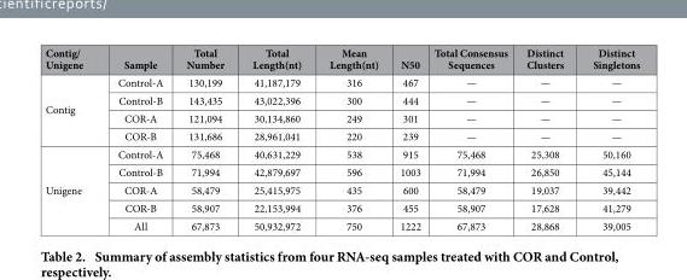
<table><thead><tr><td>Contig/ Unigene</td><td>Sample</td><td>Total Number</td><td>Total Length(nt)</td><td>Mean Length(nt)</td><td>N50</td><td>Total Consensus Sequences</td><td>Distinct Clusters</td><td>Distinct Singletons</td></tr></thead><tbody><tr><td rowspan="4">Contig</td><td>Control-A</td><td>130,199</td><td>41,187,179</td><td>316</td><td>467</td><td>—</td><td>—</td><td>—</td></tr><tr><td>Control-B</td><td>143,435</td><td>43,022,396</td><td>300</td><td>444</td><td>—</td><td>—</td><td>—</td></tr><tr><td>COR-A</td><td>121,094</td><td>30,134,860</td><td>249</td><td>301</td><td>—</td><td>—</td><td>—</td></tr><tr><td>COR-B</td><td>131,686</td><td>28,961,041</td><td>220</td><td>239</td><td>—</td><td>—</td><td>—</td></tr><tr><td rowspan="5">Unigene</td><td>Control-A</td><td>75,468</td><td>40,631,229</td><td>538</td><td>915</td><td>75,468</td><td>25,308</td><td>50,160</td></tr><tr><td>Control-B</td><td>71,994</td><td>42,879,697</td><td>596</td><td>1003</td><td>71,994</td><td>26,850</td><td>45,144</td></tr><tr><td>COR-A</td><td>58,479</td><td>25,415,975</td><td>435</td><td>600</td><td>58,479</td><td>19,037</td><td>39,442</td></tr><tr><td>COR-B</td><td>58,907</td><td>22,153,994</td><td>376</td><td>455</td><td>58,907</td><td>17,628</td><td>41,279</td></tr><tr><td>All</td><td>67,873</td><td>50,932,972</td><td>750</td><td>1222</td><td>67,873</td><td>28,868</td><td>39,005</td></tr></tbody></table>